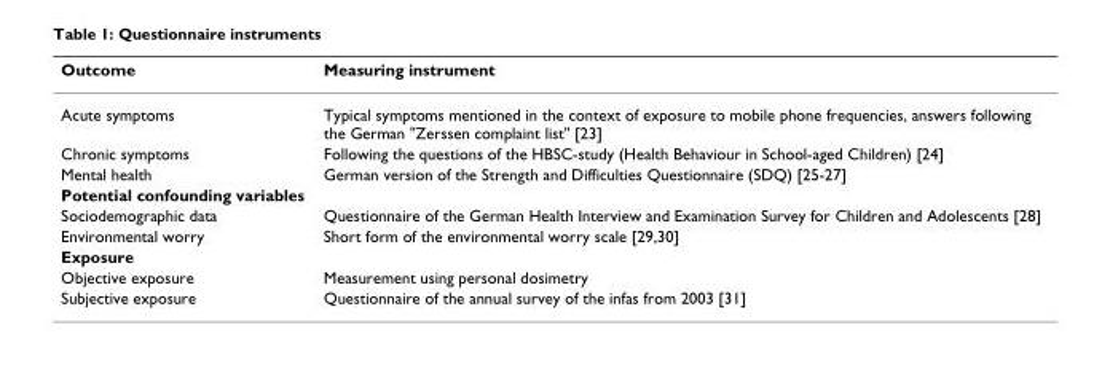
<table><thead><tr><td>Outcome</td><td>Measuring instrument</td></tr></thead><tbody><tr><td>Acute symptoms</td><td>Typical symptoms mentioned in the context of exposure to mobile phone frequencies, answers following the German &quot;Zerssen complaint list&quot; [23]</td></tr><tr><td>Chronic symptoms</td><td>Following the questions of the HBSC-study (Health Behaviour in School-aged Children) [24]</td></tr><tr><td>Mental health</td><td>German version of the Strength and Difficulties Questionnaire (SDQ) [25-27]</td></tr><tr><td colspan="2">Potential confounding variables</td></tr><tr><td>Sociodemographic data</td><td>Questionnaire of the German Health Interview and Examination Survey for Children and Adolescents [28]</td></tr><tr><td>Environmental worry</td><td>Short form of the environmental worry scale [29,30]</td></tr><tr><td colspan="2">Exposure</td></tr><tr><td>Objective exposure</td><td>Measurement using personal dosimetry</td></tr><tr><td>Subjective exposure</td><td>Questionnaire of the annual survey of the infas from 2003 [31]</td></tr></tbody></table>